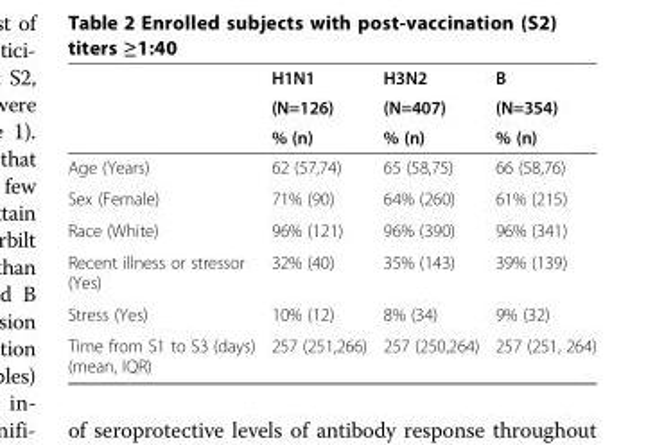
<table><thead><tr><td rowspan="3"></td><td rowspan="3">H1N1 (N=126) % (n)</td><td rowspan="3">H3N2 (N=407) % (n)</td><td rowspan="3">B (N=354) % (n)</td></tr><tr></tr><tr></tr></thead><tbody><tr><td>Age (Years)</td><td>62 (57,74)</td><td>65 (58,75)</td><td>66 (58,76)</td></tr><tr><td>Sex (Female)</td><td>71% (90)</td><td>64% (260)</td><td>61% (215)</td></tr><tr><td>Race (White)</td><td>96% (121)</td><td>96% (390)</td><td>96% (341)</td></tr><tr><td>Recent illness or stressor (Yes)</td><td>32% (40)</td><td>35% (143)</td><td>39% (139)</td></tr><tr><td>Stress (Yes)</td><td>10% (12)</td><td>8% (34)</td><td>9% (32)</td></tr><tr><td>Time from S1 to S3 (days) (mean, IQR)</td><td>257 (251,266)</td><td>257 (250,264)</td><td>257 (251, 264)</td></tr></tbody></table>